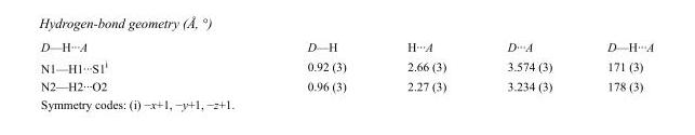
<table><tbody><tr><td>D—H···A</td><td>D—H</td><td>H···A</td><td>D···A</td><td>D—H···A</td></tr><tr><td>N1—H1···S1<sup>i</sup></td><td>0.92 (3)</td><td>2.66 (3)</td><td>3.574 (3)</td><td>171 (3)</td></tr><tr><td>N2—H2···O2</td><td>0.96 (3)</td><td>2.27 (3)</td><td>3.234 (3)</td><td>178 (3)</td></tr></tbody></table>